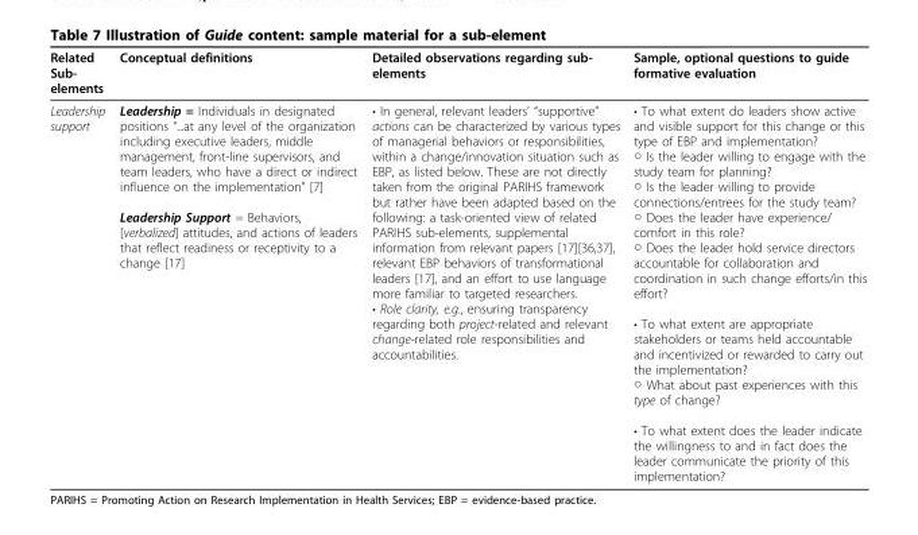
<table><thead><tr><td>Related Sub- elements</td><td>Conceptual definitions</td><td>Detailed observations regarding sub- elements</td><td>Sample, optional questions to guide formative evaluation</td></tr></thead><tbody><tr><td>Leadership support</td><td>Leadership = Individuals in designated positions “...at any level of the organization including executive leaders, middle management, front-line supervisors, and team leaders, who have a direct or indirect influence on the implementation” [7] Leadership Support = Behaviors, [verbalized] attitudes, and actions of leaders that reflect readiness or receptivity to a change [17]</td><td>• In general, relevant leaders’ “supportive” actions can be characterized by various types of managerial behaviors or responsibilities, within a change/innovation situation such as EBP, as listed below. These are not directly taken from the original PARIHS framework but rather have been adapted based on the following: a task-oriented view of related PARIHS sub-elements, supplemental information from relevant papers [17][36,37], relevant EBP behaviors of transformational leaders [17], and an effort to use language more familiar to targeted researchers. • Role clarity, e.g., ensuring transparency regarding both project-related and relevant change-related role responsibilities and accountabilities.</td><td>• To what extent do leaders show active and visible support for this change or this type of EBP and implementation? ○ Is the leader willing to engage with the study team for planning? ○ Is the leader willing to provide connections/entrees for the study team? ○ Does the leader have experience/ comfort in this role? ○ Does the leader hold service directors accountable for collaboration and coordination in such change efforts/in this effort? • To what extent are appropriate stakeholders or teams held accountable and incentivized or rewarded to carry out the implementation? ○ What about past experiences with this type of change? • To what extent does the leader indicate the willingness to and in fact does the leader communicate the priority of this implementation?</td></tr></tbody></table>